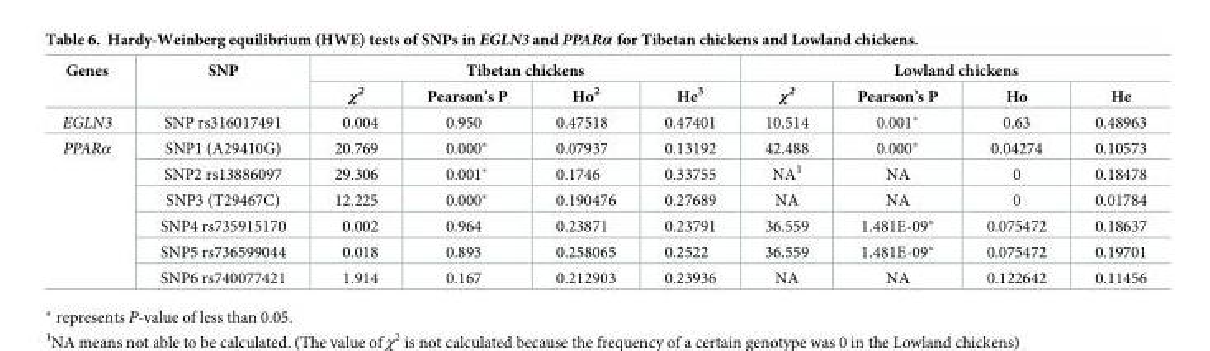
<table><thead><tr><td rowspan="2">Genes</td><td rowspan="2">SNP</td><td colspan="4">Tibetan chickens</td><td colspan="4">Lowland chickens</td></tr><tr><td>χ<sup>2</sup></td><td>Pearson’s P</td><td>Ho<sup>2</sup></td><td>He<sup>3</sup></td><td>χ<sup>2</sup></td><td>Pearson’s P</td><td>Ho</td><td>He</td></tr></thead><tbody><tr><td>EGLN3</td><td>SNP rs316017491</td><td>0.004</td><td>0.950</td><td>0.47518</td><td>0.47401</td><td>10.514</td><td>0.001*</td><td>0.63</td><td>0.48963</td></tr><tr><td rowspan="6">PPARα</td><td>SNP1 (A29410G)</td><td>20.769</td><td>0.000*</td><td>0.07937</td><td>0.13192</td><td>42.488</td><td>0.000*</td><td>0.04274</td><td>0.10573</td></tr><tr><td>SNP2 rs13886097</td><td>29.306</td><td>0.001*</td><td>0.1746</td><td>0.33755</td><td>NA<sup>1</sup></td><td>NA</td><td>0</td><td>0.18478</td></tr><tr><td>SNP3 (T29467C)</td><td>12.225</td><td>0.000*</td><td>0.190476</td><td>0.27689</td><td>NA</td><td>NA</td><td>0</td><td>0.01784</td></tr><tr><td>SNP4 rs735915170</td><td>0.002</td><td>0.964</td><td>0.23871</td><td>0.23791</td><td>36.559</td><td>1.481E-09*</td><td>0.075472</td><td>0.18637</td></tr><tr><td>SNP5 rs736599044</td><td>0.018</td><td>0.893</td><td>0.258065</td><td>0.2522</td><td>36.559</td><td>1.481E-09*</td><td>0.075472</td><td>0.19701</td></tr><tr><td>SNP6 rs740077421</td><td>1.914</td><td>0.167</td><td>0.212903</td><td>0.23936</td><td>NA</td><td>NA</td><td>0.122642</td><td>0.11456</td></tr></tbody></table>